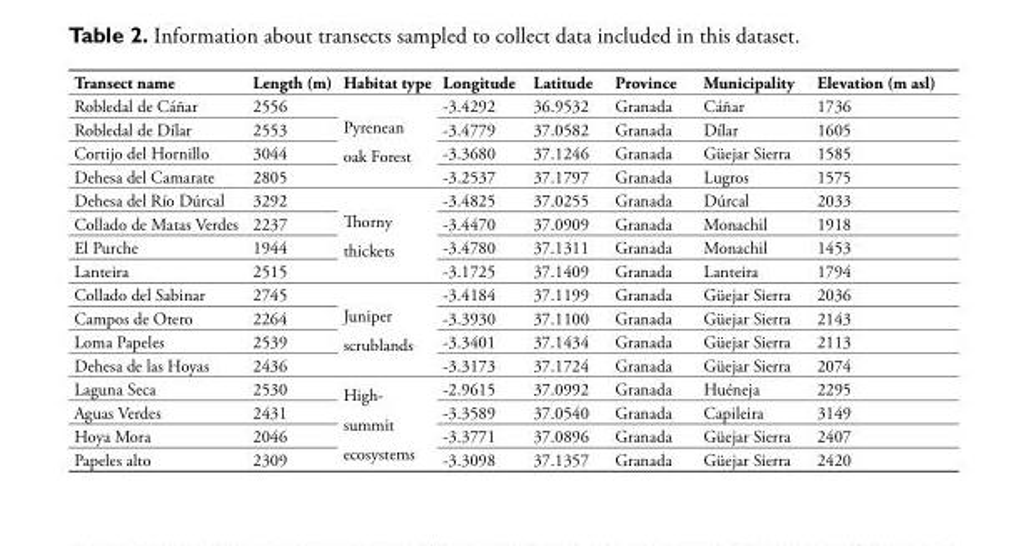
<table><thead><tr><td>Transect name</td><td>Length (m)</td><td>Habitat type</td><td>Longitude</td><td>Latitude</td><td>Province</td><td>Municipality</td><td>Elevation (m asl)</td></tr></thead><tbody><tr><td>Robledal de Cáñar</td><td>2556</td><td rowspan="4">Pyrenean oak Forest</td><td>-3.4292</td><td>36.9532</td><td>Granada</td><td>Cáñar</td><td>1736</td></tr><tr><td>Robledal de Dílar</td><td>2553</td><td>-3.4779</td><td>37.0582</td><td>Granada</td><td>Dílar</td><td>1605</td></tr><tr><td>Cortijo del Hornillo</td><td>3044</td><td>-3.3680</td><td>37.1246</td><td>Granada</td><td>Güejar Sierra</td><td>1585</td></tr><tr><td>Dehesa del Camarate</td><td>2805</td><td>-3.2537</td><td>37.1797</td><td>Granada</td><td>Lugros</td><td>1575</td></tr><tr><td>Dehesa del Río Dúrcal</td><td>3292</td><td rowspan="4">Thorny thickets</td><td>-3.4825</td><td>37.0255</td><td>Granada</td><td>Dúrcal</td><td>2033</td></tr><tr><td>Collado de Matas Verdes</td><td>2237</td><td>-3.4470</td><td>37.0909</td><td>Granada</td><td>Monachil</td><td>1918</td></tr><tr><td>El Purche</td><td>1944</td><td>-3.4780</td><td>37.1311</td><td>Granada</td><td>Monachil</td><td>1453</td></tr><tr><td>Lanteira</td><td>2515</td><td>-3.1725</td><td>37.1409</td><td>Granada</td><td>Lanteira</td><td>1794</td></tr><tr><td>Collado del Sabinar</td><td>2745</td><td rowspan="4">Juniper scrublands</td><td>-3.4184</td><td>37.1199</td><td>Granada</td><td>Güejar Sierra</td><td>2036</td></tr><tr><td>Campos de Otero</td><td>2264</td><td>-3.3930</td><td>37.1100</td><td>Granada</td><td>Güejar Sierra</td><td>2143</td></tr><tr><td>Loma Papeles</td><td>2539</td><td>-3.3401</td><td>37.1434</td><td>Granada</td><td>Güejar Sierra</td><td>2113</td></tr><tr><td>Dehesa de las Hoyas</td><td>2436</td><td>-3.3173</td><td>37.1724</td><td>Granada</td><td>Güejar Sierra</td><td>2074</td></tr><tr><td>Laguna Seca</td><td>2530</td><td rowspan="4">High- summit ecosystems</td><td>-2.9615</td><td>37.0992</td><td>Granada</td><td>Huéneja</td><td>2295</td></tr><tr><td>Aguas Verdes</td><td>2431</td><td>-3.3589</td><td>37.0540</td><td>Granada</td><td>Capileira</td><td>3149</td></tr><tr><td>Hoya Mora</td><td>2046</td><td>-3.3771</td><td>37.0896</td><td>Granada</td><td>Güejar Sierra</td><td>2407</td></tr><tr><td>Papeles alto</td><td>2309</td><td>-3.3098</td><td>37.1357</td><td>Granada</td><td>Güejar Sierra</td><td>2420</td></tr></tbody></table>